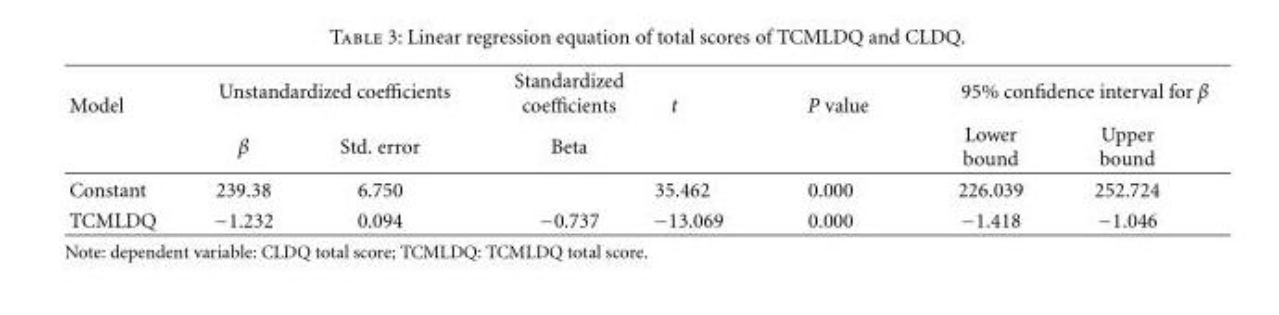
<table><thead><tr><td rowspan="2">Model</td><td colspan="2">Unstandardized coefficients</td><td rowspan="2">Standardized coefficients Beta</td><td rowspan="2">t</td><td rowspan="2">P value</td><td colspan="2">95% confidence interval for β</td></tr><tr><td>β</td><td>Std. error</td><td>Lower bound</td><td>Upper bound</td></tr></thead><tbody><tr><td>Constant</td><td>239.38</td><td>6.750</td><td></td><td>35.462</td><td>0.000</td><td>226.039</td><td>252.724</td></tr><tr><td>TCMLDQ</td><td>−1.232</td><td>0.094</td><td>−0.737</td><td>−13.069</td><td>0.000</td><td>−1.418</td><td>−1.046</td></tr></tbody></table>